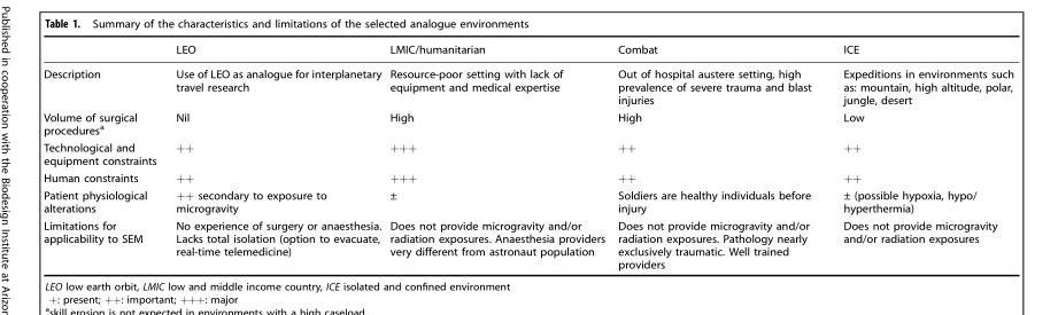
<table><thead><tr><td></td><td>LEO</td><td>LMIC/humanitarian</td><td>Combat</td><td>ICE</td></tr></thead><tbody><tr><td>Description</td><td>Use of LEO as analogue for interplanetary travel research</td><td>Resource-poor setting with lack of equipment and medical expertise</td><td>Out of hospital austere setting, high prevalence of severe trauma and blast injuries</td><td>Expeditions in environments such as: mountain, high altitude, polar, jungle, desert</td></tr><tr><td>Volume of surgical procedures<sup>a</sup></td><td>Nil</td><td>High</td><td>High</td><td>Low</td></tr><tr><td>Technological and equipment constraints</td><td>++</td><td>+++</td><td>++</td><td>++</td></tr><tr><td>Human constraints</td><td>++</td><td>+++</td><td>++</td><td>++</td></tr><tr><td>Patient physiological alterations</td><td>++ secondary to exposure to microgravity</td><td>±</td><td>Soldiers are healthy individuals before injury</td><td>± (possible hypoxia, hypo/ hyperthermia)</td></tr><tr><td>Limitations for applicability to SEM</td><td>No experience of surgery or anaesthesia. Lacks total isolation (option to evacuate, real-time telemedicine)</td><td>Does not provide microgravity and/or radiation exposures. Anaesthesia providers very different from astronaut population</td><td>Does not provide microgravity and/or radiation exposures. Pathology nearly exclusively traumatic. Well trained providers</td><td>Does not provide microgravity and/or radiation exposures</td></tr></tbody></table>